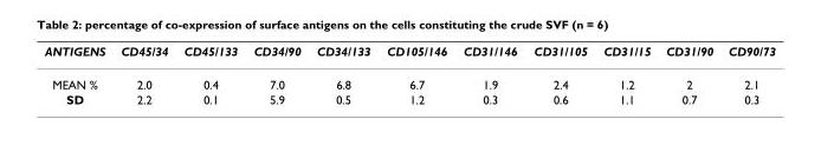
<table><thead><tr><td>ANTIGENS</td><td>CD45/34</td><td>CD45/133</td><td>CD34/90</td><td>CD34/133</td><td>CD105/146</td><td>CD31/146</td><td>CD31/105</td><td>CD31/15</td><td>CD31/90</td><td>CD90/73</td></tr></thead><tbody><tr><td>MEAN %</td><td>2.0</td><td>0.4</td><td>7.0</td><td>6.8</td><td>6.7</td><td>1.9</td><td>2.4</td><td>1.2</td><td>2</td><td>2.1</td></tr><tr><td>SD</td><td>2.2</td><td>0.1</td><td>5.9</td><td>0.5</td><td>1.2</td><td>0.3</td><td>0.6</td><td>1.1</td><td>0.7</td><td>0.3</td></tr></tbody></table>